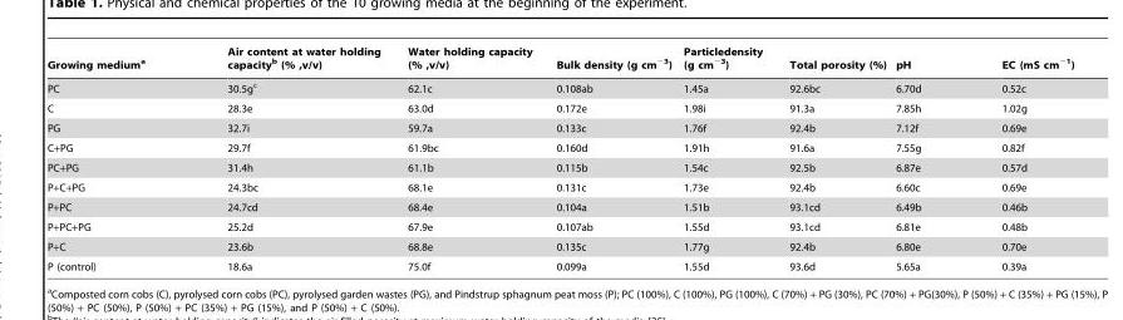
<table><thead><tr><td>Growing medium<sup>a</sup></td><td>Air content at water holding capacity<sup>b</sup> (% ,v/v)</td><td>Water holding capacity (% ,v/v)</td><td>Bulk density (g cm<sup>−3</sup>)</td><td>Particledensity (g cm<sup>−3</sup>)</td><td>Total porosity (%)</td><td>pH</td><td>EC (mS cm<sup>−1</sup>)</td></tr></thead><tbody><tr><td>PC</td><td>30.5g<sup>c</sup></td><td>62.1c</td><td>0.108ab</td><td>1.45a</td><td>92.6bc</td><td>6.70d</td><td>0.52c</td></tr><tr><td>C</td><td>28.3e</td><td>63.0d</td><td>0.172e</td><td>1.98i</td><td>91.3a</td><td>7.85h</td><td>1.02g</td></tr><tr><td>PG</td><td>32.7i</td><td>59.7a</td><td>0.133c</td><td>1.76f</td><td>92.4b</td><td>7.12f</td><td>0.69e</td></tr><tr><td>C+PG</td><td>29.7f</td><td>61.9bc</td><td>0.160d</td><td>1.91h</td><td>91.6a</td><td>7.55g</td><td>0.82f</td></tr><tr><td>PC+PG</td><td>31.4h</td><td>61.1b</td><td>0.115b</td><td>1.54c</td><td>92.5b</td><td>6.87e</td><td>0.57d</td></tr><tr><td>P+C+PG</td><td>24.3bc</td><td>68.1e</td><td>0.131c</td><td>1.73e</td><td>92.4b</td><td>6.60c</td><td>0.69e</td></tr><tr><td>P+PC</td><td>24.7cd</td><td>68.4e</td><td>0.104a</td><td>1.51b</td><td>93.1cd</td><td>6.49b</td><td>0.46b</td></tr><tr><td>P+PC+PG</td><td>25.2d</td><td>67.9e</td><td>0.107ab</td><td>1.55d</td><td>93.1cd</td><td>6.81e</td><td>0.48b</td></tr><tr><td>P+C</td><td>23.6b</td><td>68.8e</td><td>0.135c</td><td>1.77g</td><td>92.4b</td><td>6.80e</td><td>0.70e</td></tr><tr><td>P (control)</td><td>18.6a</td><td>75.0f</td><td>0.099a</td><td>1.55d</td><td>93.6d</td><td>5.65a</td><td>0.39a</td></tr></tbody></table>